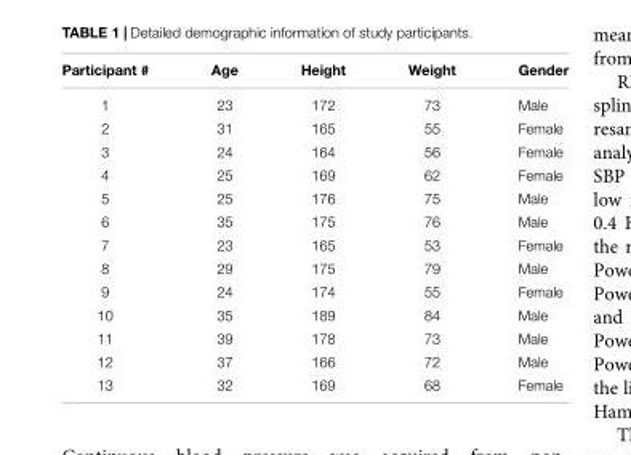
<table><thead><tr><td>Participant #</td><td>Age</td><td>Height</td><td>Weight</td><td>Gender</td></tr></thead><tbody><tr><td>1</td><td>23</td><td>172</td><td>73</td><td>Male</td></tr><tr><td>2</td><td>31</td><td>165</td><td>55</td><td>Female</td></tr><tr><td>3</td><td>24</td><td>164</td><td>56</td><td>Female</td></tr><tr><td>4</td><td>25</td><td>169</td><td>62</td><td>Female</td></tr><tr><td>5</td><td>25</td><td>176</td><td>75</td><td>Male</td></tr><tr><td>6</td><td>35</td><td>175</td><td>76</td><td>Male</td></tr><tr><td>7</td><td>23</td><td>165</td><td>53</td><td>Female</td></tr><tr><td>8</td><td>29</td><td>175</td><td>79</td><td>Male</td></tr><tr><td>9</td><td>24</td><td>174</td><td>55</td><td>Female</td></tr><tr><td>10</td><td>35</td><td>189</td><td>84</td><td>Male</td></tr><tr><td>11</td><td>39</td><td>178</td><td>73</td><td>Male</td></tr><tr><td>12</td><td>37</td><td>166</td><td>72</td><td>Male</td></tr><tr><td>13</td><td>32</td><td>169</td><td>68</td><td>Female</td></tr></tbody></table>